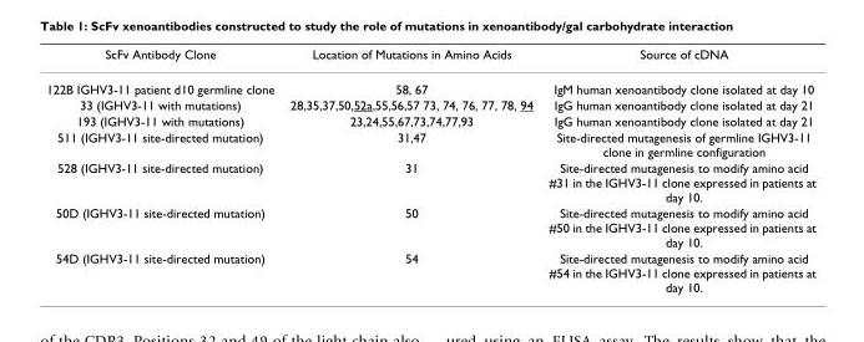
<table><thead><tr><td>ScFv Antibody Clone</td><td>Location of Mutations in Amino Acids</td><td>Source of cDNA</td></tr></thead><tbody><tr><td>122B IGHV3-11 patient d10 germline clone</td><td>58, 67</td><td>IgM human xenoantibody clone isolated at day 10</td></tr><tr><td>33 (IGHV3-11 with mutations)</td><td>28,35,37,50,52a,55,56,57 73, 74, 76, 77, 78, 94</td><td>IgG human xenoantibody clone isolated at day 21</td></tr><tr><td>193 (IGHV3-11 with mutations)</td><td>23,24,55,67,73,74,77,93</td><td>IgG human xenoantibody clone isolated at day 21</td></tr><tr><td>511 (IGHV3-11 site-directed mutation)</td><td>31,47</td><td>Site-directed mutagenesis of germline IGHV3-11 clone in germline configuration</td></tr><tr><td>528 (IGHV3-11 site-directed mutation)</td><td>31</td><td>Site-directed mutagenesis to modify amino acid #31 in the IGHV3-11 clone expressed in patients at day 10.</td></tr><tr><td>50D (IGHV3-11 site-directed mutation)</td><td>50</td><td>Site-directed mutagenesis to modify amino acid #50 in the IGHV3-11 clone expressed in patients at day 10.</td></tr><tr><td>54D (IGHV3-11 site-directed mutation)</td><td>54</td><td>Site-directed mutagenesis to modify amino acid #54 in the IGHV3-11 clone expressed in patients at day 10.</td></tr></tbody></table>